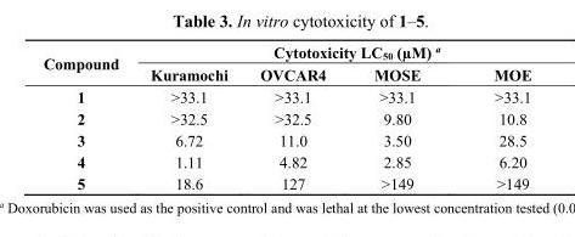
<table><thead><tr><td rowspan="2">Compound</td><td colspan="4">Cytotoxicity LC<sub>50</sub> (µM) <sup>a</sup></td></tr><tr><td>Kuramochi</td><td>OVCAR4</td><td>MOSE</td><td>MOE</td></tr></thead><tbody><tr><td>1</td><td>&gt;33.1</td><td>&gt;33.1</td><td>&gt;33.1</td><td>&gt;33.1</td></tr><tr><td>2</td><td>&gt;32.5</td><td>&gt;32.5</td><td>9.80</td><td>10.8</td></tr><tr><td>3</td><td>6.72</td><td>11.0</td><td>3.50</td><td>28.5</td></tr><tr><td>4</td><td>1.11</td><td>4.82</td><td>2.85</td><td>6.20</td></tr><tr><td>5</td><td>18.6</td><td>127</td><td>&gt;149</td><td>&gt;149</td></tr></tbody></table>